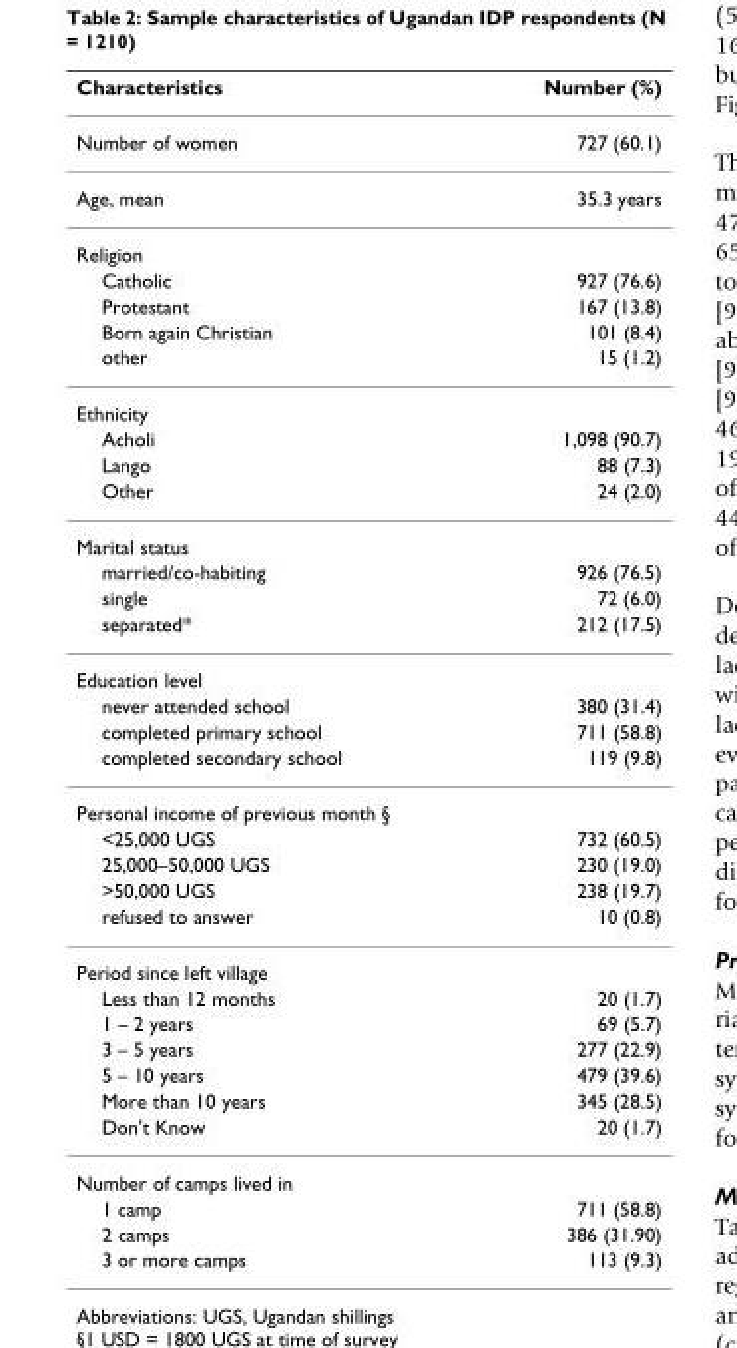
<table><thead><tr><td>Characteristics</td><td>Number (%)</td></tr></thead><tbody><tr><td>Number of women</td><td>727 (60.1)</td></tr><tr><td>Age, mean</td><td>35.3 years</td></tr><tr><td colspan="2">Religion</td></tr><tr><td>Catholic</td><td>927 (76.6)</td></tr><tr><td>Protestant</td><td>167 (13.8)</td></tr><tr><td>Born again Christian</td><td>101 (8.4)</td></tr><tr><td>other</td><td>15 (1.2)</td></tr><tr><td colspan="2">Ethnicity</td></tr><tr><td>Acholi</td><td>1,098 (90.7)</td></tr><tr><td>Lango</td><td>88 (7.3)</td></tr><tr><td>Other</td><td>24 (2.0)</td></tr><tr><td colspan="2">Marital status</td></tr><tr><td>married/co-habiting</td><td>926 (76.5)</td></tr><tr><td>single</td><td>72 (6.0)</td></tr><tr><td>separated*</td><td>212 (17.5)</td></tr><tr><td colspan="2">Education level</td></tr><tr><td>never attended school</td><td>380 (31.4)</td></tr><tr><td>completed primary school</td><td>711 (58.8)</td></tr><tr><td>completed secondary school</td><td>119 (9.8)</td></tr><tr><td colspan="2">Personal income of previous month §</td></tr><tr><td>&lt;25,000 UGS</td><td>732 (60.5)</td></tr><tr><td>25,000–50,000 UGS</td><td>230 (19.0)</td></tr><tr><td>&gt;50,000 UGS</td><td>238 (19.7)</td></tr><tr><td>refused to answer</td><td>10 (0.8)</td></tr><tr><td colspan="2">Period since left village</td></tr><tr><td>Less than 12 months</td><td>20 (1.7)</td></tr><tr><td>1 – 2 years</td><td>69 (5.7)</td></tr><tr><td>3 – 5 years</td><td>277 (22.9)</td></tr><tr><td>5 – 10 years</td><td>479 (39.6)</td></tr><tr><td>More than 10 years</td><td>345 (28.5)</td></tr><tr><td>Don&#x27;t Know</td><td>20 (1.7)</td></tr><tr><td colspan="2">Number of camps lived in</td></tr><tr><td>1 camp</td><td>711 (58.8)</td></tr><tr><td>2 camps</td><td>386 (31.90)</td></tr><tr><td>3 or more camps</td><td>113 (9.3)</td></tr></tbody></table>